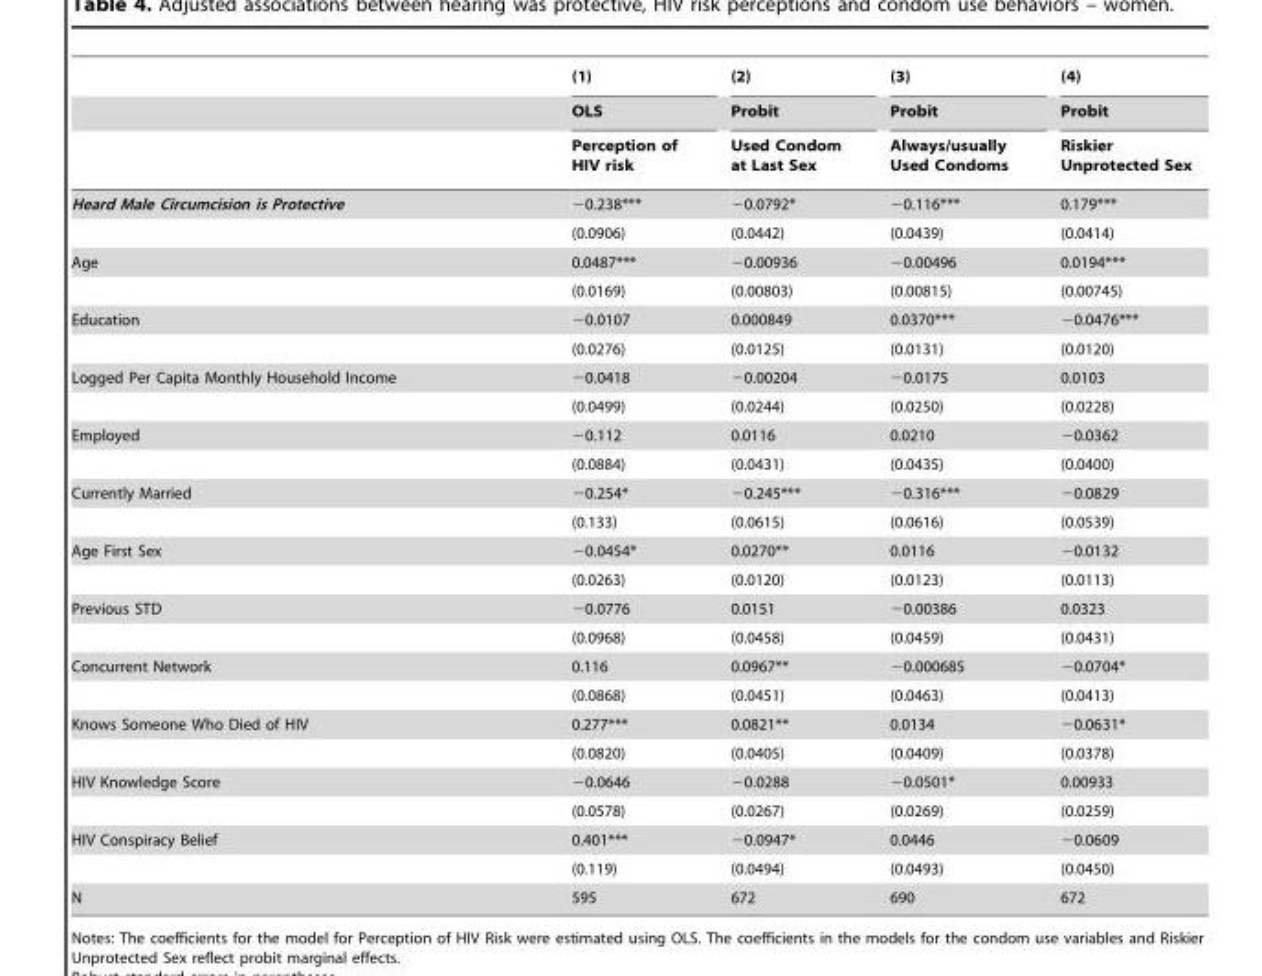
<table><thead><tr><td rowspan="3"></td><td rowspan="3">(1) OLS Perception of HIV risk</td><td rowspan="3">(2) Probit Used Condom at Last Sex</td><td rowspan="3">(3) Probit Always/usually Used Condoms</td><td rowspan="3">(4) Probit Riskier Unprotected Sex</td></tr><tr></tr><tr></tr></thead><tbody><tr><td rowspan="2">Heard Male Circumcision is Protective</td><td>−0.238***</td><td>−0.0792*</td><td>−0.116***</td><td>0.179***</td></tr><tr><td>(0.0906)</td><td>(0.0442)</td><td>(0.0439)</td><td>(0.0414)</td></tr><tr><td rowspan="2">Age</td><td>0.0487***</td><td>−0.00936</td><td>−0.00496</td><td>0.0194***</td></tr><tr><td>(0.0169)</td><td>(0.00803)</td><td>(0.00815)</td><td>(0.00745)</td></tr><tr><td rowspan="2">Education</td><td>−0.0107</td><td>0.000849</td><td>0.0370***</td><td>−0.0476***</td></tr><tr><td>(0.0276)</td><td>(0.0125)</td><td>(0.0131)</td><td>(0.0120)</td></tr><tr><td rowspan="2">Logged Per Capita Monthly Household Income</td><td>−0.0418</td><td>−0.00204</td><td>−0.0175</td><td>0.0103</td></tr><tr><td>(0.0499)</td><td>(0.0244)</td><td>(0.0250)</td><td>(0.0228)</td></tr><tr><td rowspan="2">Employed</td><td>−0.112</td><td>0.0116</td><td>0.0210</td><td>−0.0362</td></tr><tr><td>(0.0884)</td><td>(0.0431)</td><td>(0.0435)</td><td>(0.0400)</td></tr><tr><td rowspan="2">Currently Married</td><td>−0.254*</td><td>−0.245***</td><td>−0.316***</td><td>−0.0829</td></tr><tr><td>(0.133)</td><td>(0.0615)</td><td>(0.0616)</td><td>(0.0539)</td></tr><tr><td rowspan="2">Age First Sex</td><td>−0.0454*</td><td>0.0270**</td><td>0.0116</td><td>−0.0132</td></tr><tr><td>(0.0263)</td><td>(0.0120)</td><td>(0.0123)</td><td>(0.0113)</td></tr><tr><td rowspan="2">Previous STD</td><td>−0.0776</td><td>0.0151</td><td>−0.00386</td><td>0.0323</td></tr><tr><td>(0.0968)</td><td>(0.0458)</td><td>(0.0459)</td><td>(0.0431)</td></tr><tr><td rowspan="2">Concurrent Network</td><td>0.116</td><td>0.0967**</td><td>−0.000685</td><td>−0.0704*</td></tr><tr><td>(0.0868)</td><td>(0.0451)</td><td>(0.0463)</td><td>(0.0413)</td></tr><tr><td rowspan="2">Knows Someone Who Died of HIV</td><td>0.277***</td><td>0.0821**</td><td>0.0134</td><td>−0.0631*</td></tr><tr><td>(0.0820)</td><td>(0.0405)</td><td>(0.0409)</td><td>(0.0378)</td></tr><tr><td rowspan="2">HIV Knowledge Score</td><td>−0.0646</td><td>−0.0288</td><td>−0.0501*</td><td>0.00933</td></tr><tr><td>(0.0578)</td><td>(0.0267)</td><td>(0.0269)</td><td>(0.0259)</td></tr><tr><td rowspan="2">HIV Conspiracy Belief</td><td>0.401***</td><td>−0.0947*</td><td>0.0446</td><td>−0.0609</td></tr><tr><td>(0.119)</td><td>(0.0494)</td><td>(0.0493)</td><td>(0.0450)</td></tr><tr><td>N</td><td>595</td><td>672</td><td>690</td><td>672</td></tr></tbody></table>